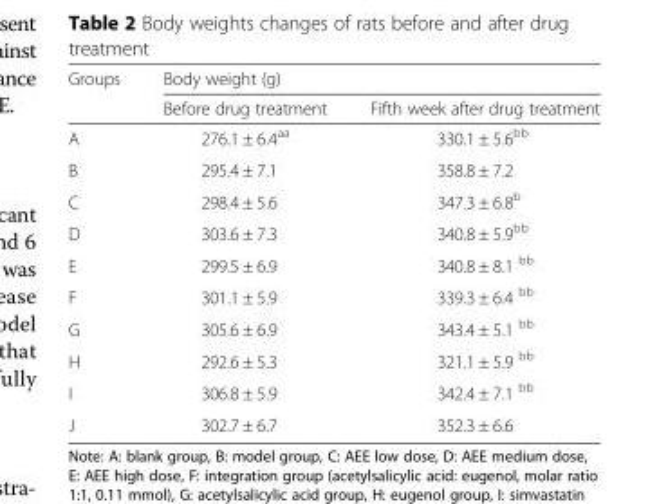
<table><thead><tr><td rowspan="2">Groups</td><td colspan="2">Body weight (g)</td></tr><tr><td>Before drug treatment</td><td>Fifth week after drug treatment</td></tr></thead><tbody><tr><td>A</td><td>276.1 ± 6.4<sup>aa</sup></td><td>330.1 ± 5.6<sup>bb</sup></td></tr><tr><td>B</td><td>295.4 ± 7.1</td><td>358.8 ± 7.2</td></tr><tr><td>C</td><td>298.4 ± 5.6</td><td>347.3 ± 6.8<sup>b</sup></td></tr><tr><td>D</td><td>303.6 ± 7.3</td><td>340.8 ± 5.9<sup>bb</sup></td></tr><tr><td>E</td><td>299.5 ± 6.9</td><td>340.8 ± 8.1 <sup>bb</sup></td></tr><tr><td>F</td><td>301.1 ± 5.9</td><td>339.3 ± 6.4 <sup>bb</sup></td></tr><tr><td>G</td><td>305.6 ± 6.9</td><td>343.4 ± 5.1 <sup>bb</sup></td></tr><tr><td>H</td><td>292.6 ± 5.3</td><td>321.1 ± 5.9 <sup>bb</sup></td></tr><tr><td>I</td><td>306.8 ± 5.9</td><td>342.4 ± 7.1 <sup>bb</sup></td></tr><tr><td>J</td><td>302.7 ± 6.7</td><td>352.3 ± 6.6</td></tr></tbody></table>